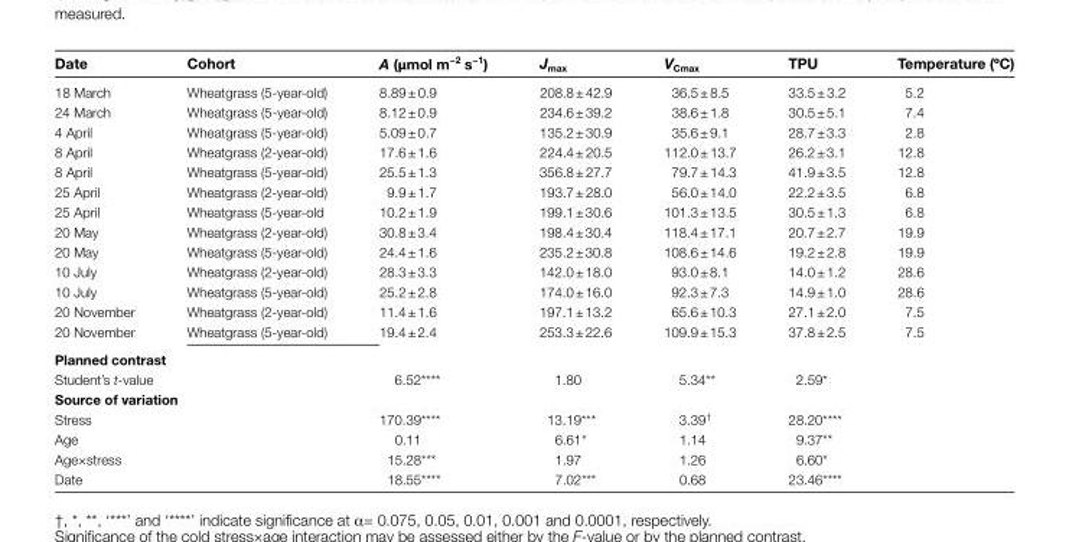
<table><thead><tr><td>Date</td><td>Cohort</td><td>A (μmol m<sup>−2</sup> s<sup>−1</sup>)</td><td>J<sub>max</sub></td><td>V<sub>Cmax</sub></td><td>TPU</td><td>Temperature (ºC)</td></tr></thead><tbody><tr><td>18 March</td><td>Wheatgrass (5-year-old)</td><td>8.89 ± 0.9</td><td>208.8 ± 42.9</td><td>36.5 ± 8.5</td><td>33.5 ± 3.2</td><td>5.2</td></tr><tr><td>24 March</td><td>Wheatgrass (5-year-old)</td><td>8.12 ± 0.9</td><td>234.6 ± 39.2</td><td>38.6 ± 1.8</td><td>30.5 ± 5.1</td><td>7.4</td></tr><tr><td>4 April</td><td>Wheatgrass (5-year-old)</td><td>5.09 ± 0.7</td><td>135.2 ± 30.9</td><td>35.6 ± 9.1</td><td>28.7 ± 3.3</td><td>2.8</td></tr><tr><td>8 April</td><td>Wheatgrass (2-year-old)</td><td>17.6 ± 1.6</td><td>224.4 ± 20.5</td><td>112.0 ± 13.7</td><td>26.2 ± 3.1</td><td>12.8</td></tr><tr><td>8 April</td><td>Wheatgrass (5-year-old)</td><td>25.5 ± 1.3</td><td>356.8 ± 27.7</td><td>79.7 ± 14.3</td><td>41.9 ± 3.5</td><td>12.8</td></tr><tr><td>25 April</td><td>Wheatgrass (2-year-old)</td><td>9.9 ± 1.7</td><td>193.7 ± 28.0</td><td>56.0 ± 14.0</td><td>22.2 ± 3.5</td><td>6.8</td></tr><tr><td>25 April</td><td>Wheatgrass (5-year-old</td><td>10.2 ± 1.9</td><td>199.1 ± 30.6</td><td>101.3 ± 13.5</td><td>30.5 ± 1.3</td><td>6.8</td></tr><tr><td>20 May</td><td>Wheatgrass (2-year-old)</td><td>30.8 ± 3.4</td><td>198.4 ± 30.4</td><td>118.4 ± 17.1</td><td>20.7 ± 2.7</td><td>19.9</td></tr><tr><td>20 May</td><td>Wheatgrass (5-year-old)</td><td>24.4 ± 1.6</td><td>235.2 ± 30.8</td><td>108.6 ± 14.6</td><td>19.2 ± 2.8</td><td>19.9</td></tr><tr><td>10 July</td><td>Wheatgrass (2-year-old)</td><td>28.3 ± 3.3</td><td>142.0 ± 18.0</td><td>93.0 ± 8.1</td><td>14.0 ± 1.2</td><td>28.6</td></tr><tr><td>10 July</td><td>Wheatgrass (5-year-old)</td><td>25.2 ± 2.8</td><td>174.0 ± 16.0</td><td>92.3 ± 7.3</td><td>14.9 ± 1.0</td><td>28.6</td></tr><tr><td>20 November</td><td>Wheatgrass (2-year-old)</td><td>11.4 ± 1.6</td><td>197.1 ± 13.2</td><td>65.6 ± 10.3</td><td>27.1 ± 2.0</td><td>7.5</td></tr><tr><td>20 November</td><td>Wheatgrass (5-year-old)</td><td>19.4 ± 2.4</td><td>253.3 ± 22.6</td><td>109.9 ± 15.3</td><td>37.8 ± 2.5</td><td>7.5</td></tr><tr><td colspan="7">Planned contrast</td></tr><tr><td colspan="2">Student’s t-value</td><td>6.52****</td><td>1.80</td><td>5.34**</td><td>2.59*</td><td></td></tr><tr><td colspan="7">Source of variation</td></tr><tr><td colspan="2">Stress</td><td>170.39****</td><td>13.19***</td><td>3.39<sup>†</sup></td><td>28.20****</td><td></td></tr><tr><td colspan="2">Age</td><td>0.11</td><td>6.61*</td><td>1.14</td><td>9.37**</td><td></td></tr><tr><td colspan="2">Age×stress</td><td>15.28***</td><td>1.97</td><td>1.26</td><td>6.60*</td><td></td></tr><tr><td colspan="2">Date</td><td>18.55****</td><td>7.02***</td><td>0.68</td><td>23.46****</td><td></td></tr></tbody></table>